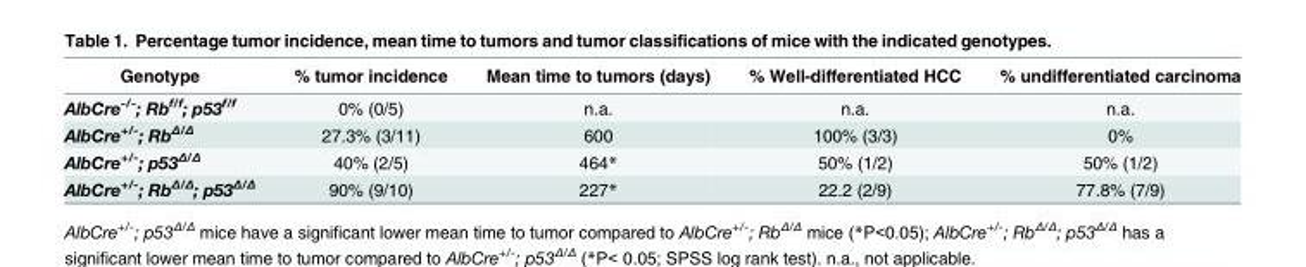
<table><thead><tr><td>Genotype</td><td>% tumor incidence</td><td>Mean time to tumors (days)</td><td>% Well-differentiated HCC</td><td>% undifferentiated carcinoma</td></tr></thead><tbody><tr><td>AlbCre<sup>-/-</sup>; Rb<sup>f/f</sup>; p53<sup>f/f</sup></td><td>0% (0/5)</td><td>n.a.</td><td>n.a.</td><td>n.a.</td></tr><tr><td>AlbCre<sup>+/-</sup>; Rb<sup>Δ/Δ</sup></td><td>27.3% (3/11)</td><td>600</td><td>100% (3/3)</td><td>0%</td></tr><tr><td>AlbCre<sup>+/-</sup>; p53<sup>Δ/Δ</sup></td><td>40% (2/5)</td><td>464*</td><td>50% (1/2)</td><td>50% (1/2)</td></tr><tr><td>AlbCre<sup>+/-</sup>; Rb<sup>Δ/Δ</sup>; p53<sup>Δ/Δ</sup></td><td>90% (9/10)</td><td>227*</td><td>22.2 (2/9)</td><td>77.8% (7/9)</td></tr></tbody></table>